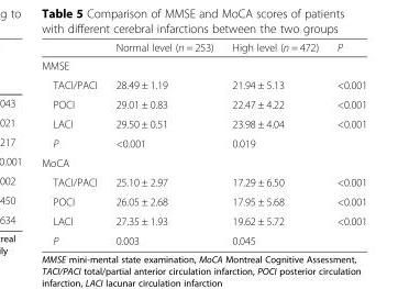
<table><thead><tr><td></td><td>Normal level (n = 253)</td><td>High level (n = 472)</td><td>P</td></tr></thead><tbody><tr><td colspan="4">MMSE</td></tr><tr><td>TACI/PACI</td><td>28.49 ± 1.19</td><td>21.94 ± 5.13</td><td>&lt;0.001</td></tr><tr><td>POCI</td><td>29.01 ± 0.83</td><td>22.47 ± 4.22</td><td>&lt;0.001</td></tr><tr><td>LACI</td><td>29.50 ± 0.51</td><td>23.98 ± 4.04</td><td>&lt;0.001</td></tr><tr><td>P</td><td>&lt;0.001</td><td>0.019</td><td></td></tr><tr><td colspan="4">MoCA</td></tr><tr><td>TACI/PACI</td><td>25.10 ± 2.97</td><td>17.29 ± 6.50</td><td>&lt;0.001</td></tr><tr><td>POCI</td><td>26.05 ± 2.68</td><td>17.95 ± 5.68</td><td>&lt;0.001</td></tr><tr><td>LACI</td><td>27.35 ± 1.93</td><td>19.62 ± 5.72</td><td>&lt;0.001</td></tr><tr><td>P</td><td>0.003</td><td>0.045</td><td></td></tr></tbody></table>